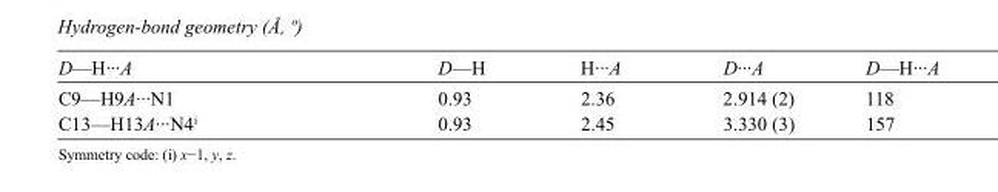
<table><tbody><tr><td>D—H···A</td><td>D—H</td><td>H···A</td><td>D···A</td><td>D—H···A</td></tr><tr><td>C9—H9A···N1</td><td>0.93</td><td>2.36</td><td>2.914 (2)</td><td>118</td></tr><tr><td>C13—H13A···N4<sup>i</sup></td><td>0.93</td><td>2.45</td><td>3.330 (3)</td><td>157</td></tr></tbody></table>